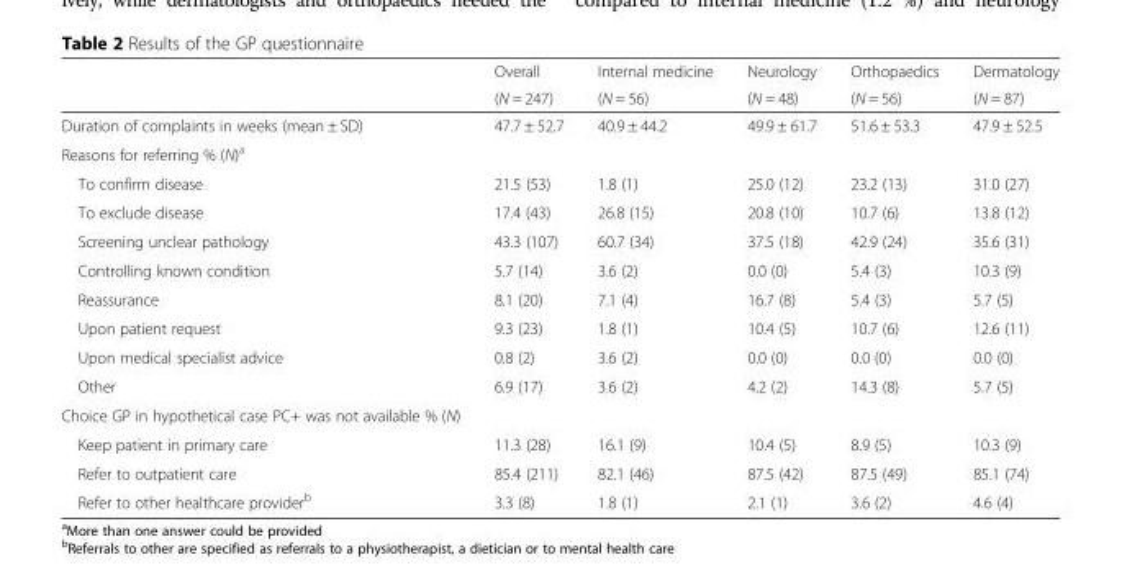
<table><thead><tr><td rowspan="2"></td><td rowspan="2">Overall (N = 247)</td><td rowspan="2">Internal medicine (N = 56)</td><td rowspan="2">Neurology (N = 48)</td><td rowspan="2">Orthopaedics (N = 56)</td><td rowspan="2">Dermatology (N = 87)</td></tr><tr></tr></thead><tbody><tr><td>Duration of complaints in weeks (mean ± SD)</td><td>47.7 ± 52.7</td><td>40.9 ± 44.2</td><td>49.9 ± 61.7</td><td>51.6 ± 53.3</td><td>47.9 ± 52.5</td></tr><tr><td colspan="6">Reasons for referring % (N)<sup>a</sup></td></tr><tr><td>To confirm disease</td><td>21.5 (53)</td><td>1.8 (1)</td><td>25.0 (12)</td><td>23.2 (13)</td><td>31.0 (27)</td></tr><tr><td>To exclude disease</td><td>17.4 (43)</td><td>26.8 (15)</td><td>20.8 (10)</td><td>10.7 (6)</td><td>13.8 (12)</td></tr><tr><td>Screening unclear pathology</td><td>43.3 (107)</td><td>60.7 (34)</td><td>37.5 (18)</td><td>42.9 (24)</td><td>35.6 (31)</td></tr><tr><td>Controlling known condition</td><td>5.7 (14)</td><td>3.6 (2)</td><td>0.0 (0)</td><td>5.4 (3)</td><td>10.3 (9)</td></tr><tr><td>Reassurance</td><td>8.1 (20)</td><td>7.1 (4)</td><td>16.7 (8)</td><td>5.4 (3)</td><td>5.7 (5)</td></tr><tr><td>Upon patient request</td><td>9.3 (23)</td><td>1.8 (1)</td><td>10.4 (5)</td><td>10.7 (6)</td><td>12.6 (11)</td></tr><tr><td>Upon medical specialist advice</td><td>0.8 (2)</td><td>3.6 (2)</td><td>0.0 (0)</td><td>0.0 (0)</td><td>0.0 (0)</td></tr><tr><td>Other</td><td>6.9 (17)</td><td>3.6 (2)</td><td>4.2 (2)</td><td>14.3 (8)</td><td>5.7 (5)</td></tr><tr><td colspan="6">Choice GP in hypothetical case PC+ was not available % (N)</td></tr><tr><td>Keep patient in primary care</td><td>11.3 (28)</td><td>16.1 (9)</td><td>10.4 (5)</td><td>8.9 (5)</td><td>10.3 (9)</td></tr><tr><td>Refer to outpatient care</td><td>85.4 (211)</td><td>82.1 (46)</td><td>87.5 (42)</td><td>87.5 (49)</td><td>85.1 (74)</td></tr><tr><td>Refer to other healthcare provider<sup>b</sup></td><td>3.3 (8)</td><td>1.8 (1)</td><td>2.1 (1)</td><td>3.6 (2)</td><td>4.6 (4)</td></tr></tbody></table>